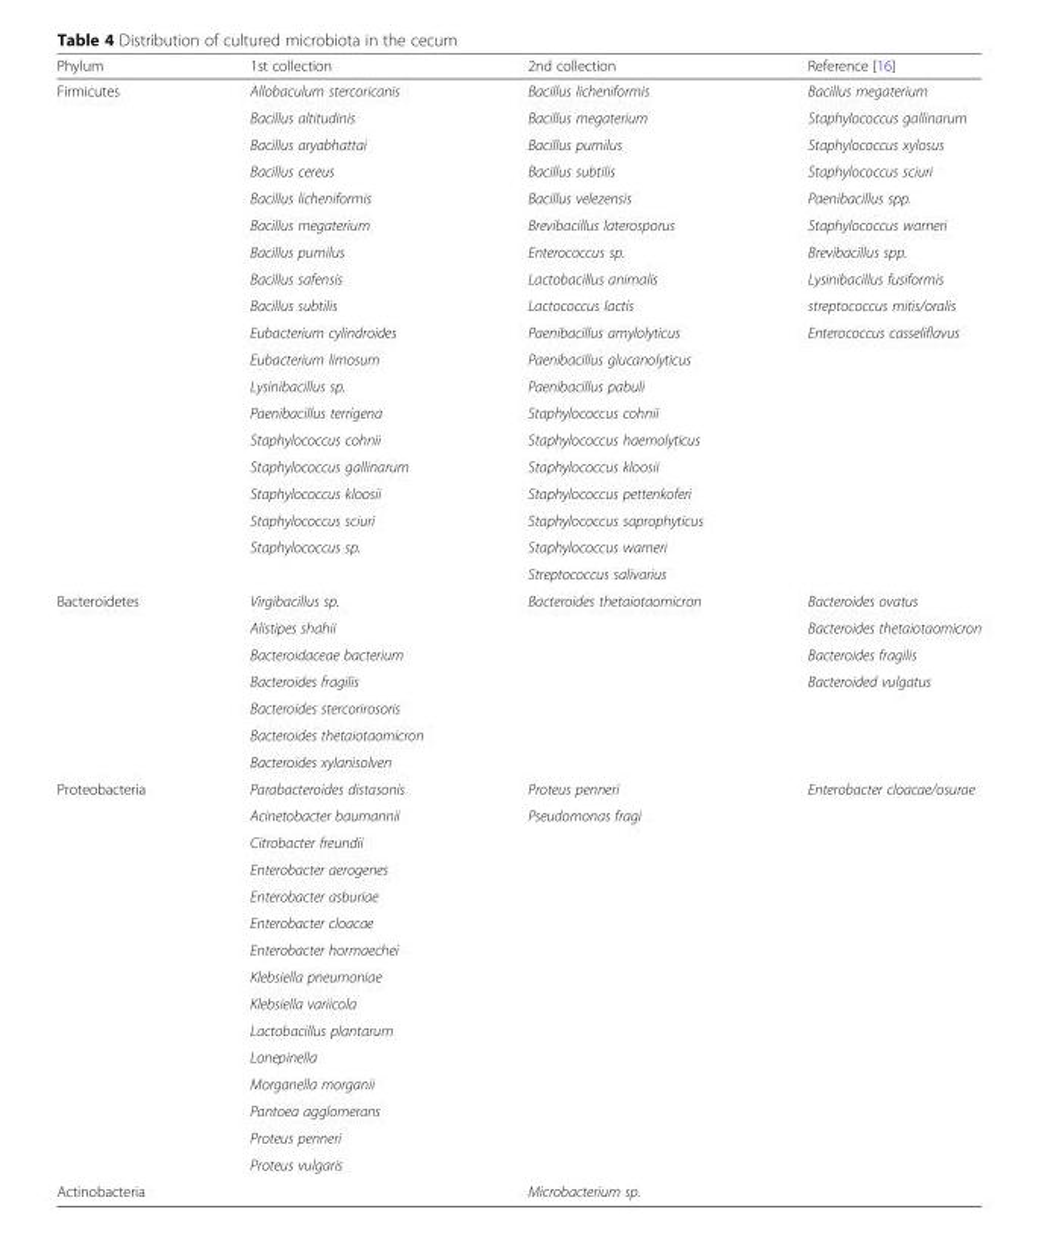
<table><thead><tr><td>Phylum</td><td>1st collection</td><td>2nd collection</td><td>Reference [16]</td></tr></thead><tbody><tr><td rowspan="19">Firmicutes</td><td>Allobaculum stercoricanis</td><td>Bacillus licheniformis</td><td>Bacillus megaterium</td></tr><tr><td>Bacillus altitudinis</td><td>Bacillus megaterium</td><td>Staphylococcus gallinarum</td></tr><tr><td>Bacillus aryabhattai</td><td>Bacillus pumilus</td><td>Staphylococcus xylosus</td></tr><tr><td>Bacillus cereus</td><td>Bacillus subtilis</td><td>Staphylococcus sciuri</td></tr><tr><td>Bacillus licheniformis</td><td>Bacillus velezensis</td><td>Paenibacillus spp.</td></tr><tr><td>Bacillus megaterium</td><td>Brevibacillus laterosporus</td><td>Staphylococcus warneri</td></tr><tr><td>Bacillus pumilus</td><td>Enterococcus sp.</td><td>Brevibacillus spp.</td></tr><tr><td>Bacillus safensis</td><td>Lactobacillus animalis</td><td>Lysinibacillus fusiformis</td></tr><tr><td>Bacillus subtilis</td><td>Lactococcus lactis</td><td>streptococcus mitis/oralis</td></tr><tr><td>Eubacterium cylindroides</td><td>Paenibacillus amylolyticus</td><td>Enterococcus casseliflavus</td></tr><tr><td>Eubacterium limosum</td><td>Paenibacillus glucanolyticus</td><td></td></tr><tr><td>Lysinibacillus sp.</td><td>Paenibacillus pabuli</td><td></td></tr><tr><td>Paenibacillus terrigena</td><td>Staphylococcus cohnii</td><td></td></tr><tr><td>Staphylococcus cohnii</td><td>Staphylococcus haemolyticus</td><td></td></tr><tr><td>Staphylococcus gallinarum</td><td>Staphylococcus kloosii</td><td></td></tr><tr><td>Staphylococcus kloosii</td><td>Staphylococcus pettenkoferi</td><td></td></tr><tr><td>Staphylococcus sciuri</td><td>Staphylococcus saprophyticus</td><td></td></tr><tr><td>Staphylococcus sp.</td><td>Staphylococcus warneri</td><td></td></tr><tr><td></td><td>Streptococcus salivarius</td><td></td></tr><tr><td rowspan="7">Bacteroidetes</td><td>Virgibacillus sp.</td><td>Bacteroides thetaiotaomicron</td><td>Bacteroides ovatus</td></tr><tr><td>Alistipes shahii</td><td></td><td>Bacteroides thetaiotaomicron</td></tr><tr><td>Bacteroidaceae bacterium</td><td></td><td>Bacteroides fragilis</td></tr><tr><td>Bacteroides fragilis</td><td></td><td>Bacteroided vulgatus</td></tr><tr><td>Bacteroides stercorirosoris</td><td></td><td></td></tr><tr><td>Bacteroides thetaiotaomicron</td><td></td><td></td></tr><tr><td>Bacteroides xylanisolven</td><td></td><td></td></tr><tr><td rowspan="15">Proteobacteria</td><td>Parabacteroides distasonis</td><td>Proteus penneri</td><td>Enterobacter cloacae/osurae</td></tr><tr><td>Acinetobacter baumannii</td><td>Pseudomonas fragi</td><td></td></tr><tr><td>Citrobacter freundii</td><td></td><td></td></tr><tr><td>Enterobacter aerogenes</td><td></td><td></td></tr><tr><td>Enterobacter asburiae</td><td></td><td></td></tr><tr><td>Enterobacter cloacae</td><td></td><td></td></tr><tr><td>Enterobacter hormaechei</td><td></td><td></td></tr><tr><td>Klebsiella pneumoniae</td><td></td><td></td></tr><tr><td>Klebsiella variicola</td><td></td><td></td></tr><tr><td>Lactobacillus plantarum</td><td></td><td></td></tr><tr><td>Lonepinella</td><td></td><td></td></tr><tr><td>Morganella morganii</td><td></td><td></td></tr><tr><td>Pantoea agglomerans</td><td></td><td></td></tr><tr><td>Proteus penneri</td><td></td><td></td></tr><tr><td>Proteus vulgaris</td><td></td><td></td></tr><tr><td>Actinobacteria</td><td></td><td>Microbacterium sp.</td><td></td></tr></tbody></table>